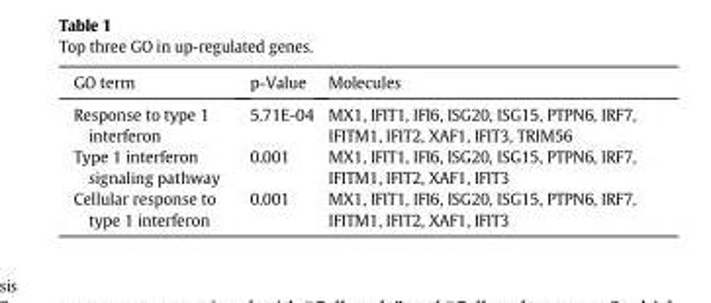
<table><thead><tr><td>GO term</td><td>p-Value</td><td>Molecules</td></tr></thead><tbody><tr><td>Response to type 1 interferon</td><td>5.71E-04</td><td>MX1, IFIT1, IFI6, ISG20, ISG15, PTPN6, IRF7, IFITM1, IFIT2, XAF1, IFIT3, TRIM56</td></tr><tr><td>Type 1 interferon signaling pathway</td><td>0.001</td><td>MX1, IFIT1, IFI6, ISG20, ISG15, PTPN6, IRF7, IFITM1, IFIT2, XAF1, IFIT3</td></tr><tr><td>Cellular response to type 1 interferon</td><td>0.001</td><td>MX1, IFIT1, IFI6, ISG20, ISG15, PTPN6, IRF7, IFITM1, IFIT2, XAF1, IFIT3</td></tr></tbody></table>